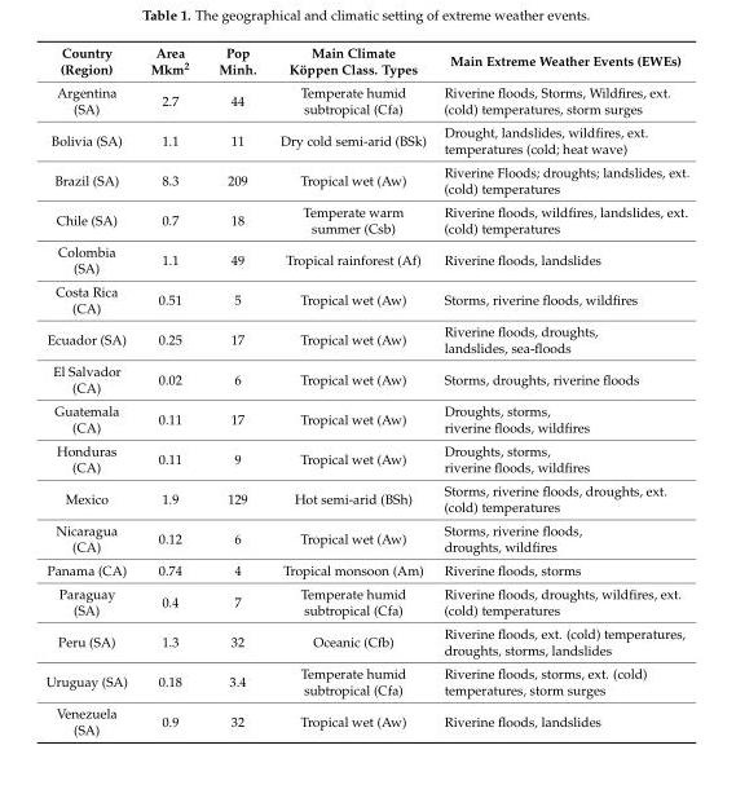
<table><thead><tr><td>Country (Region)</td><td>Area Mkm<sup>2</sup></td><td>Pop Minh.</td><td>Main Climate Köppen Class. Types</td><td>Main Extreme Weather Events (EWEs)</td></tr></thead><tbody><tr><td>Argentina (SA)</td><td>2.7</td><td>44</td><td>Temperate humid subtropical (Cfa)</td><td>Riverine floods, Storms, Wildfires, ext. (cold) temperatures, storm surges</td></tr><tr><td>Bolivia (SA)</td><td>1.1</td><td>11</td><td>Dry cold semi-arid (BSk)</td><td>Drought, landslides, wildfires, ext. temperatures (cold; heat wave)</td></tr><tr><td>Brazil (SA)</td><td>8.3</td><td>209</td><td>Tropical wet (Aw)</td><td>Riverine Floods; droughts; landslides, ext. (cold) temperatures</td></tr><tr><td>Chile (SA)</td><td>0.7</td><td>18</td><td>Temperate warm summer (Csb)</td><td>Riverine floods, wildfires, landslides, ext. (cold) temperatures</td></tr><tr><td>Colombia (SA)</td><td>1.1</td><td>49</td><td>Tropical rainforest (Af)</td><td>Riverine floods, landslides</td></tr><tr><td>Costa Rica (CA)</td><td>0.51</td><td>5</td><td>Tropical wet (Aw)</td><td>Storms, riverine floods, wildfires</td></tr><tr><td>Ecuador (SA)</td><td>0.25</td><td>17</td><td>Tropical wet (Aw)</td><td>Riverine floods, droughts, landslides, sea-floods</td></tr><tr><td>El Salvador (CA)</td><td>0.02</td><td>6</td><td>Tropical wet (Aw)</td><td>Storms, droughts, riverine floods</td></tr><tr><td>Guatemala (CA)</td><td>0.11</td><td>17</td><td>Tropical wet (Aw)</td><td>Droughts, storms, riverine floods, wildfires</td></tr><tr><td>Honduras (CA)</td><td>0.11</td><td>9</td><td>Tropical wet (Aw)</td><td>Droughts, storms, riverine floods, wildfires</td></tr><tr><td>Mexico</td><td>1.9</td><td>129</td><td>Hot semi-arid (BSh)</td><td>Storms, riverine floods, droughts, ext. (cold) temperatures</td></tr><tr><td>Nicaragua (CA)</td><td>0.12</td><td>6</td><td>Tropical wet (Aw)</td><td>Storms, riverine floods, droughts, wildfires</td></tr><tr><td>Panama (CA)</td><td>0.74</td><td>4</td><td>Tropical monsoon (Am)</td><td>Riverine floods, storms</td></tr><tr><td>Paraguay (SA)</td><td>0.4</td><td>7</td><td>Temperate humid subtropical (Cfa)</td><td>Riverine floods, droughts, wildfires, ext. (cold) temperatures</td></tr><tr><td>Peru (SA)</td><td>1.3</td><td>32</td><td>Oceanic (Cfb)</td><td>Riverine floods, ext. (cold) temperatures, droughts, storms, landslides</td></tr><tr><td>Uruguay (SA)</td><td>0.18</td><td>3.4</td><td>Temperate humid subtropical (Cfa)</td><td>Riverine floods, storms, ext. (cold) temperatures, storm surges</td></tr><tr><td>Venezuela (SA)</td><td>0.9</td><td>32</td><td>Tropical wet (Aw)</td><td>Riverine floods, landslides</td></tr></tbody></table>